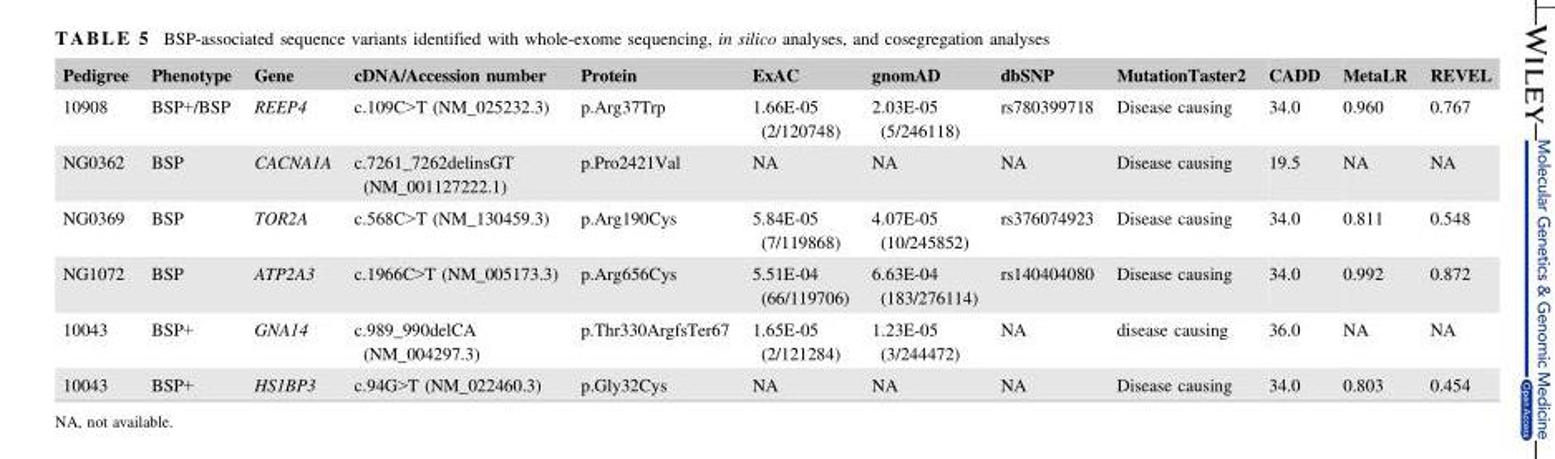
<table><thead><tr><td>Pedigree</td><td>Phenotype</td><td>Gene</td><td>cDNA/Accession number</td><td>Protein</td><td>ExAC</td><td>gnomAD</td><td>dbSNP</td><td>MutationTaster2</td><td>CADD</td><td>MetaLR</td><td>REVEL</td></tr></thead><tbody><tr><td>10908</td><td>BSP+/BSP</td><td>REEP4</td><td>c.109C&gt;T (NM_025232.3)</td><td>p.Arg37Trp</td><td>1.66E-05 (2/120748)</td><td>2.03E-05 (5/246118)</td><td>rs780399718</td><td>Disease causing</td><td>34.0</td><td>0.960</td><td>0.767</td></tr><tr><td>NG0362</td><td>BSP</td><td>CACNA1A</td><td>c.7261_7262delinsGT (NM_001127222.1)</td><td>p.Pro2421Val</td><td>NA</td><td>NA</td><td>NA</td><td>Disease causing</td><td>19.5</td><td>NA</td><td>NA</td></tr><tr><td>NG0369</td><td>BSP</td><td>TOR2A</td><td>c.568C&gt;T (NM_130459.3)</td><td>p.Arg190Cys</td><td>5.84E-05 (7/119868)</td><td>4.07E-05 (10/245852)</td><td>rs376074923</td><td>Disease causing</td><td>34.0</td><td>0.811</td><td>0.548</td></tr><tr><td>NG1072</td><td>BSP</td><td>ATP2A3</td><td>c.1966C&gt;T (NM_005173.3)</td><td>p.Arg656Cys</td><td>5.51E-04 (66/119706)</td><td>6.63E-04 (183/276114)</td><td>rs140404080</td><td>Disease causing</td><td>34.0</td><td>0.992</td><td>0.872</td></tr><tr><td>10043</td><td>BSP+</td><td>GNA14</td><td>c.989_990delCA (NM_004297.3)</td><td>p.Thr330ArgfsTer67</td><td>1.65E-05 (2/121284)</td><td>1.23E-05 (3/244472)</td><td>NA</td><td>disease causing</td><td>36.0</td><td>NA</td><td>NA</td></tr><tr><td>10043</td><td>BSP+</td><td>HS1BP3</td><td>c.94G&gt;T (NM_022460.3)</td><td>p.Gly32Cys</td><td>NA</td><td>NA</td><td>NA</td><td>Disease causing</td><td>34.0</td><td>0.803</td><td>0.454</td></tr></tbody></table>